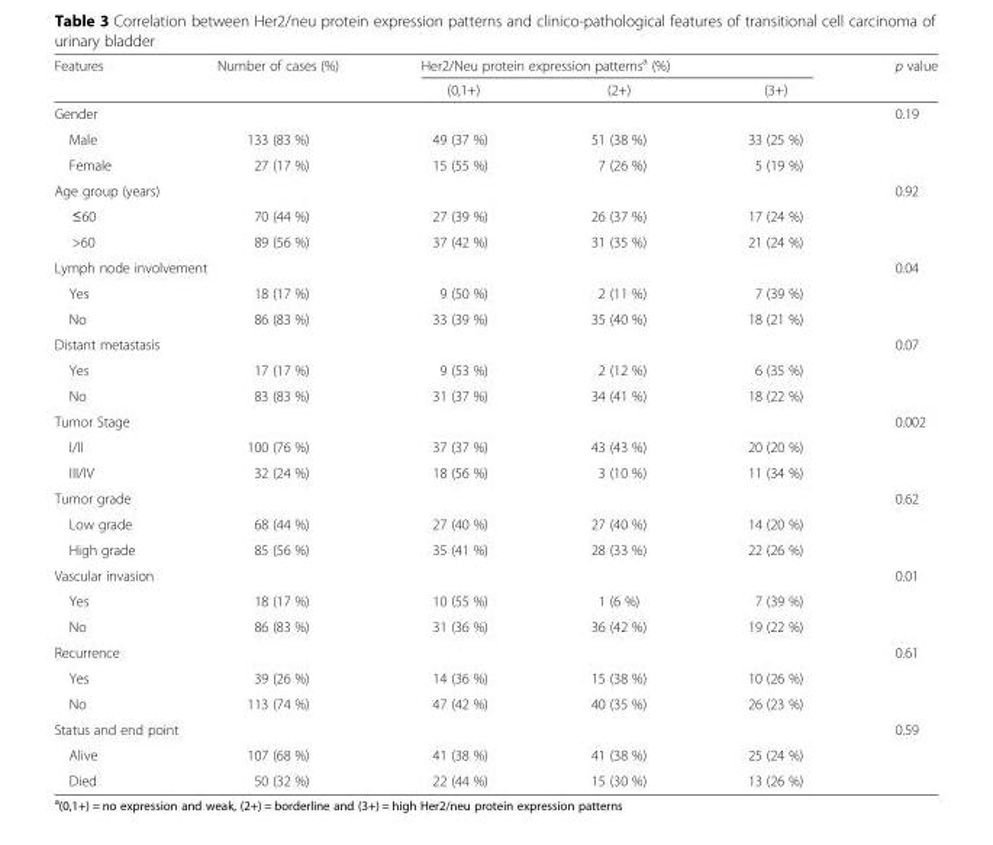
<table><thead><tr><td rowspan="2">Features</td><td rowspan="2">Number of cases (%)</td><td colspan="3">Her2/Neu protein expression patterns<sup>a</sup> (%)</td><td rowspan="2">p value</td></tr><tr><td>(0,1+)</td><td>(2+)</td><td>(3+)</td></tr></thead><tbody><tr><td colspan="5">Gender</td><td>0.19</td></tr><tr><td>Male</td><td>133 (83 %)</td><td>49 (37 %)</td><td>51 (38 %)</td><td>33 (25 %)</td><td></td></tr><tr><td>Female</td><td>27 (17 %)</td><td>15 (55 %)</td><td>7 (26 %)</td><td>5 (19 %)</td><td></td></tr><tr><td colspan="5">Age group (years)</td><td>0.92</td></tr><tr><td>≤60</td><td>70 (44 %)</td><td>27 (39 %)</td><td>26 (37 %)</td><td>17 (24 %)</td><td></td></tr><tr><td>&gt;60</td><td>89 (56 %)</td><td>37 (42 %)</td><td>31 (35 %)</td><td>21 (24 %)</td><td></td></tr><tr><td colspan="5">Lymph node involvement</td><td>0.04</td></tr><tr><td>Yes</td><td>18 (17 %)</td><td>9 (50 %)</td><td>2 (11 %)</td><td>7 (39 %)</td><td></td></tr><tr><td>No</td><td>86 (83 %)</td><td>33 (39 %)</td><td>35 (40 %)</td><td>18 (21 %)</td><td></td></tr><tr><td colspan="5">Distant metastasis</td><td>0.07</td></tr><tr><td>Yes</td><td>17 (17 %)</td><td>9 (53 %)</td><td>2 (12 %)</td><td>6 (35 %)</td><td></td></tr><tr><td>No</td><td>83 (83 %)</td><td>31 (37 %)</td><td>34 (41 %)</td><td>18 (22 %)</td><td></td></tr><tr><td colspan="5">Tumor Stage</td><td>0.002</td></tr><tr><td>I/II</td><td>100 (76 %)</td><td>37 (37 %)</td><td>43 (43 %)</td><td>20 (20 %)</td><td></td></tr><tr><td>III/IV</td><td>32 (24 %)</td><td>18 (56 %)</td><td>3 (10 %)</td><td>11 (34 %)</td><td></td></tr><tr><td colspan="5">Tumor grade</td><td>0.62</td></tr><tr><td>Low grade</td><td>68 (44 %)</td><td>27 (40 %)</td><td>27 (40 %)</td><td>14 (20 %)</td><td></td></tr><tr><td>High grade</td><td>85 (56 %)</td><td>35 (41 %)</td><td>28 (33 %)</td><td>22 (26 %)</td><td></td></tr><tr><td colspan="5">Vascular invasion</td><td>0.01</td></tr><tr><td>Yes</td><td>18 (17 %)</td><td>10 (55 %)</td><td>1 (6 %)</td><td>7 (39 %)</td><td></td></tr><tr><td>No</td><td>86 (83 %)</td><td>31 (36 %)</td><td>36 (42 %)</td><td>19 (22 %)</td><td></td></tr><tr><td colspan="5">Recurrence</td><td>0.61</td></tr><tr><td>Yes</td><td>39 (26 %)</td><td>14 (36 %)</td><td>15 (38 %)</td><td>10 (26 %)</td><td></td></tr><tr><td>No</td><td>113 (74 %)</td><td>47 (42 %)</td><td>40 (35 %)</td><td>26 (23 %)</td><td></td></tr><tr><td colspan="5">Status and end point</td><td>0.59</td></tr><tr><td>Alive</td><td>107 (68 %)</td><td>41 (38 %)</td><td>41 (38 %)</td><td>25 (24 %)</td><td></td></tr><tr><td>Died</td><td>50 (32 %)</td><td>22 (44 %)</td><td>15 (30 %)</td><td>13 (26 %)</td><td></td></tr></tbody></table>